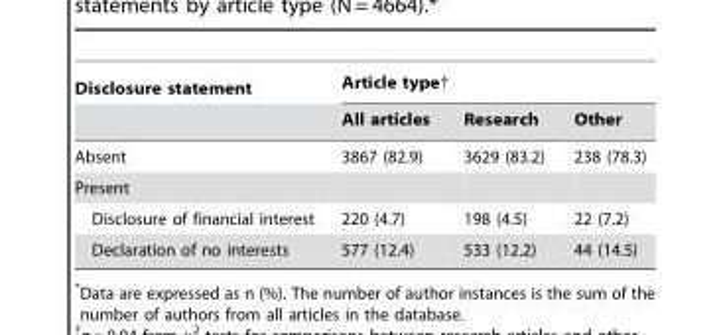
<table><thead><tr><td rowspan="2">Disclosure statement</td><td colspan="3">Article type†</td></tr><tr><td>All articles</td><td>Research</td><td>Other</td></tr></thead><tbody><tr><td>Absent</td><td>3867 (82.9)</td><td>3629 (83.2)</td><td>238 (78.3)</td></tr><tr><td colspan="4">Present</td></tr><tr><td>Disclosure of financial interest</td><td>220 (4.7)</td><td>198 (4.5)</td><td>22 (7.2)</td></tr><tr><td>Declaration of no interests</td><td>577 (12.4)</td><td>533 (12.2)</td><td>44 (14.5)</td></tr></tbody></table>